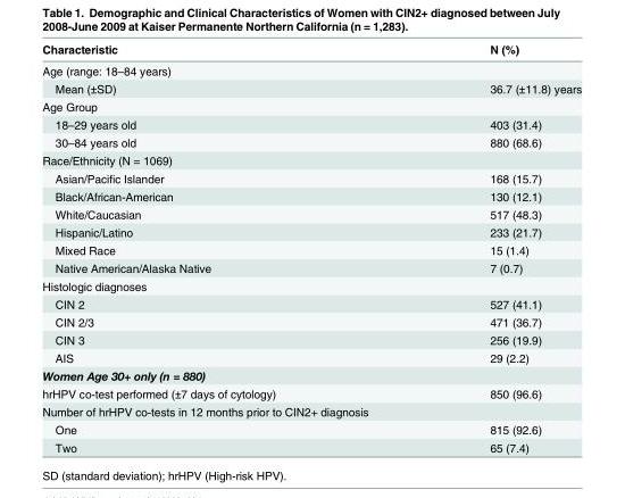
<table><thead><tr><td>Characteristic</td><td>N (%)</td></tr></thead><tbody><tr><td colspan="2">Age (range: 18–84 years)</td></tr><tr><td>Mean (±SD)</td><td>36.7 (±11.8) years</td></tr><tr><td colspan="2">Age Group</td></tr><tr><td>18–29 years old</td><td>403 (31.4)</td></tr><tr><td>30–84 years old</td><td>880 (68.6)</td></tr><tr><td colspan="2">Race/Ethnicity (N = 1069)</td></tr><tr><td>Asian/Pacific Islander</td><td>168 (15.7)</td></tr><tr><td>Black/African-American</td><td>130 (12.1)</td></tr><tr><td>White/Caucasian</td><td>517 (48.3)</td></tr><tr><td>Hispanic/Latino</td><td>233 (21.7)</td></tr><tr><td>Mixed Race</td><td>15 (1.4)</td></tr><tr><td>Native American/Alaska Native</td><td>7 (0.7)</td></tr><tr><td colspan="2">Histologic diagnoses</td></tr><tr><td>CIN 2</td><td>527 (41.1)</td></tr><tr><td>CIN 2/3</td><td>471 (36.7)</td></tr><tr><td>CIN 3</td><td>256 (19.9)</td></tr><tr><td>AIS</td><td>29 (2.2)</td></tr><tr><td colspan="2">Women Age 30+ only (n = 880)</td></tr><tr><td>hrHPV co-test performed (±7 days of cytology)</td><td>850 (96.6)</td></tr><tr><td colspan="2">Number of hrHPV co-tests in 12 months prior to CIN2+ diagnosis</td></tr><tr><td>One</td><td>815 (92.6)</td></tr><tr><td>Two</td><td>65 (7.4)</td></tr></tbody></table>